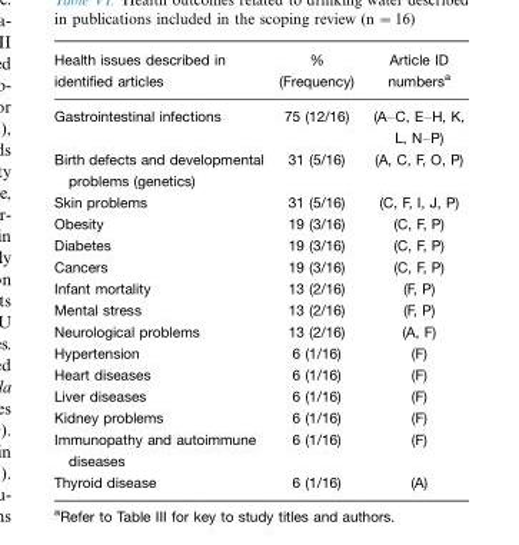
<table><thead><tr><td>Health issues described in identified articles</td><td>% (Frequency)</td><td>Article ID numbers<sup>a</sup></td></tr></thead><tbody><tr><td>Gastrointestinal infections</td><td>75 (12/16)</td><td>(A–C, E–H, K, L, N–P)</td></tr><tr><td>Birth defects and developmental problems (genetics)</td><td>31 (5/16)</td><td>(A, C, F, O, P)</td></tr><tr><td>Skin problems</td><td>31 (5/16)</td><td>(C, F, I, J, P)</td></tr><tr><td>Obesity</td><td>19 (3/16)</td><td>(C, F, P)</td></tr><tr><td>Diabetes</td><td>19 (3/16)</td><td>(C, F, P)</td></tr><tr><td>Cancers</td><td>19 (3/16)</td><td>(C, F, P)</td></tr><tr><td>Infant mortality</td><td>13 (2/16)</td><td>(F, P)</td></tr><tr><td>Mental stress</td><td>13 (2/16)</td><td>(F, P)</td></tr><tr><td>Neurological problems</td><td>13 (2/16)</td><td>(A, F)</td></tr><tr><td>Hypertension</td><td>6 (1/16)</td><td>(F)</td></tr><tr><td>Heart diseases</td><td>6 (1/16)</td><td>(F)</td></tr><tr><td>Liver diseases</td><td>6 (1/16)</td><td>(F)</td></tr><tr><td>Kidney problems</td><td>6 (1/16)</td><td>(F)</td></tr><tr><td>Immunopathy and autoimmune diseases</td><td>6 (1/16)</td><td>(F)</td></tr><tr><td>Thyroid disease</td><td>6 (1/16)</td><td>(A)</td></tr></tbody></table>